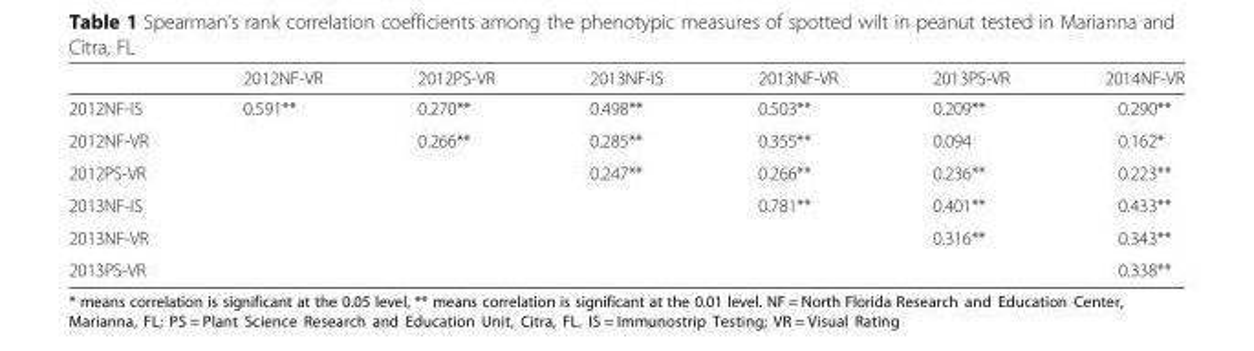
<table><thead><tr><td></td><td>2012NF-VR</td><td>2012PS-VR</td><td>2013NF-IS</td><td>2013NF-VR</td><td>2013PS-VR</td><td>2014NF-VR</td></tr></thead><tbody><tr><td>2012NF-IS</td><td>0.591**</td><td>0.270**</td><td>0.498**</td><td>0.503**</td><td>0.209**</td><td>0.290**</td></tr><tr><td>2012NF-VR</td><td></td><td>0.266**</td><td>0.285**</td><td>0.355**</td><td>0.094</td><td>0.162*</td></tr><tr><td>2012PS-VR</td><td></td><td></td><td>0.247**</td><td>0.266**</td><td>0.236**</td><td>0.223**</td></tr><tr><td>2013NF-IS</td><td></td><td></td><td></td><td>0.781**</td><td>0.401**</td><td>0.433**</td></tr><tr><td>2013NF-VR</td><td></td><td></td><td></td><td></td><td>0.316**</td><td>0.343**</td></tr><tr><td>2013PS-VR</td><td></td><td></td><td></td><td></td><td></td><td>0.338**</td></tr></tbody></table>